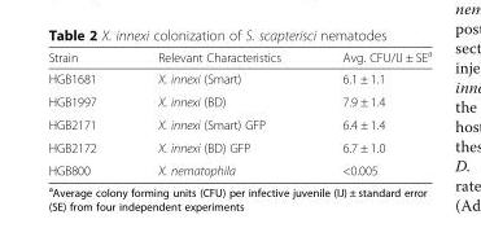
<table><thead><tr><td>Strain</td><td>Relevant Characteristics</td><td>Avg. CFU/IJ ± SE<sup>a</sup></td></tr></thead><tbody><tr><td>HGB1681</td><td>X. innexi (Smart)</td><td>6.1 ± 1.1</td></tr><tr><td>HGB1997</td><td>X. innexi (BD)</td><td>7.9 ± 1.4</td></tr><tr><td>HGB2171</td><td>X. innexi (Smart) GFP</td><td>6.4 ± 1.4</td></tr><tr><td>HGB2172</td><td>X. innexi (BD) GFP</td><td>6.7 ± 1.0</td></tr><tr><td>HGB800</td><td>X. nematophila</td><td>&lt;0.005</td></tr></tbody></table>